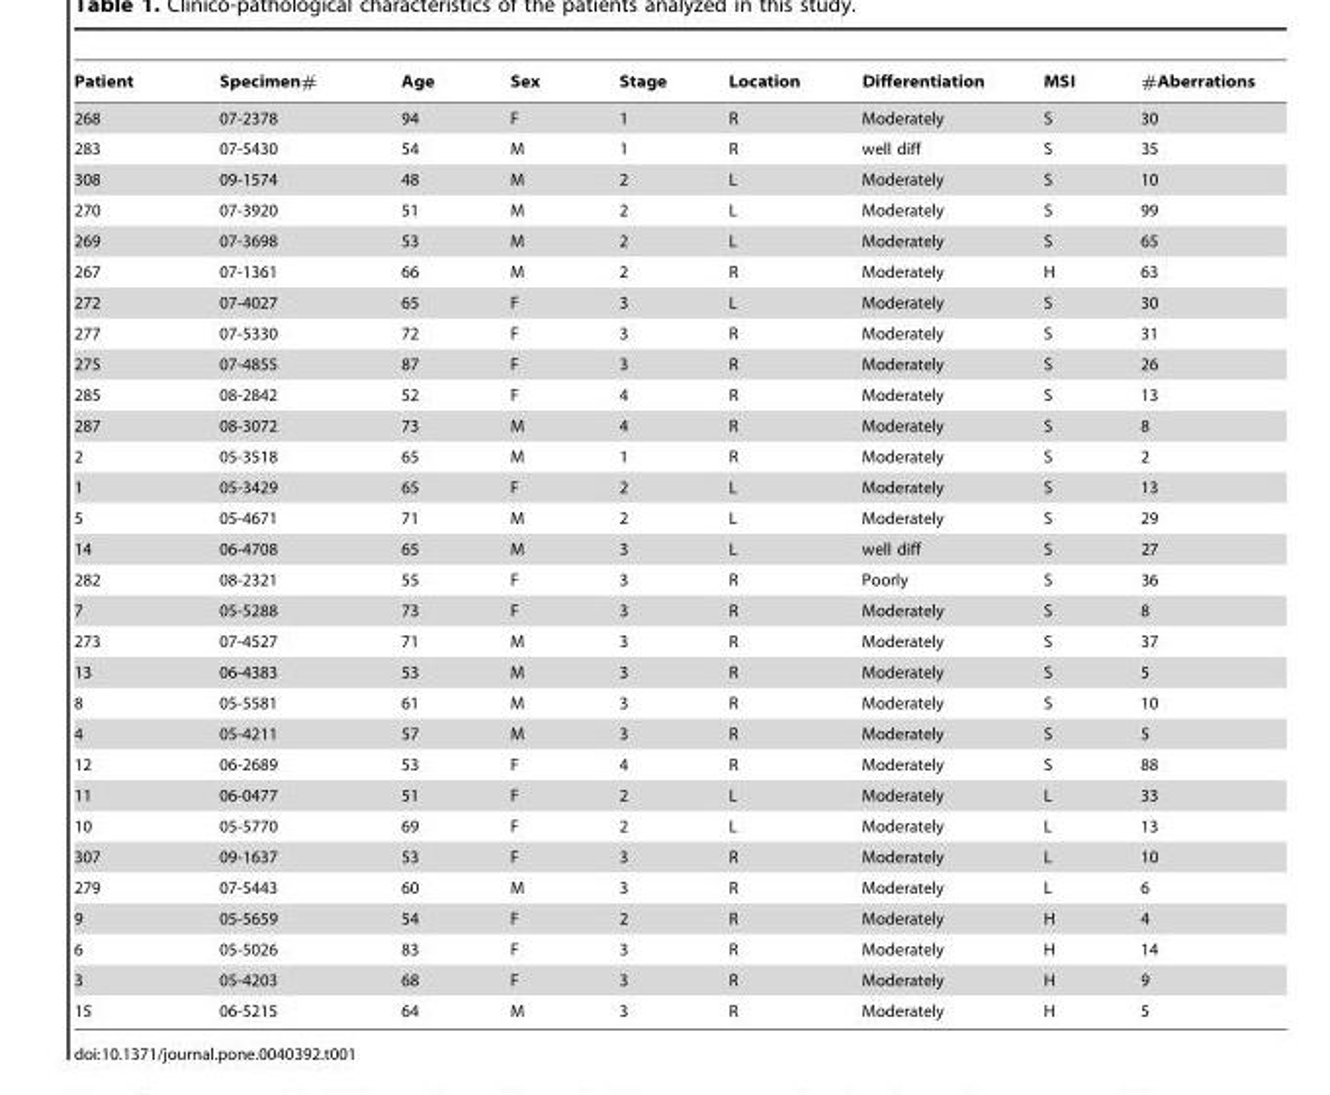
<table><thead><tr><td>Patient</td><td>Specimen#</td><td>Age</td><td>Sex</td><td>Stage</td><td>Location</td><td>Differentiation</td><td>MSI</td><td>#Aberrations</td></tr></thead><tbody><tr><td>268</td><td>07-2378</td><td>94</td><td>F</td><td>1</td><td>R</td><td>Moderately</td><td>S</td><td>30</td></tr><tr><td>283</td><td>07-5430</td><td>54</td><td>M</td><td>1</td><td>R</td><td>well diff</td><td>S</td><td>35</td></tr><tr><td>308</td><td>09-1574</td><td>48</td><td>M</td><td>2</td><td>L</td><td>Moderately</td><td>S</td><td>10</td></tr><tr><td>270</td><td>07-3920</td><td>51</td><td>M</td><td>2</td><td>L</td><td>Moderately</td><td>S</td><td>99</td></tr><tr><td>269</td><td>07-3698</td><td>53</td><td>M</td><td>2</td><td>L</td><td>Moderately</td><td>S</td><td>65</td></tr><tr><td>267</td><td>07-1361</td><td>66</td><td>M</td><td>2</td><td>R</td><td>Moderately</td><td>H</td><td>63</td></tr><tr><td>272</td><td>07-4027</td><td>65</td><td>F</td><td>3</td><td>L</td><td>Moderately</td><td>S</td><td>30</td></tr><tr><td>277</td><td>07-5330</td><td>72</td><td>F</td><td>3</td><td>R</td><td>Moderately</td><td>S</td><td>31</td></tr><tr><td>275</td><td>07-4855</td><td>87</td><td>F</td><td>3</td><td>R</td><td>Moderately</td><td>S</td><td>26</td></tr><tr><td>285</td><td>08-2842</td><td>52</td><td>F</td><td>4</td><td>R</td><td>Moderately</td><td>S</td><td>13</td></tr><tr><td>287</td><td>08-3072</td><td>73</td><td>M</td><td>4</td><td>R</td><td>Moderately</td><td>S</td><td>8</td></tr><tr><td>2</td><td>05-3518</td><td>65</td><td>M</td><td>1</td><td>R</td><td>Moderately</td><td>S</td><td>2</td></tr><tr><td>1</td><td>05-3429</td><td>65</td><td>F</td><td>2</td><td>L</td><td>Moderately</td><td>S</td><td>13</td></tr><tr><td>5</td><td>05-4671</td><td>71</td><td>M</td><td>2</td><td>L</td><td>Moderately</td><td>S</td><td>29</td></tr><tr><td>14</td><td>06-4708</td><td>65</td><td>M</td><td>3</td><td>L</td><td>well diff</td><td>S</td><td>27</td></tr><tr><td>282</td><td>08-2321</td><td>55</td><td>F</td><td>3</td><td>R</td><td>Poorly</td><td>S</td><td>36</td></tr><tr><td>7</td><td>05-5288</td><td>73</td><td>F</td><td>3</td><td>R</td><td>Moderately</td><td>S</td><td>8</td></tr><tr><td>273</td><td>07-4527</td><td>71</td><td>M</td><td>3</td><td>R</td><td>Moderately</td><td>S</td><td>37</td></tr><tr><td>13</td><td>06-4383</td><td>53</td><td>M</td><td>3</td><td>R</td><td>Moderately</td><td>S</td><td>5</td></tr><tr><td>8</td><td>05-5581</td><td>61</td><td>M</td><td>3</td><td>R</td><td>Moderately</td><td>S</td><td>10</td></tr><tr><td>4</td><td>05-4211</td><td>57</td><td>M</td><td>3</td><td>R</td><td>Moderately</td><td>S</td><td>5</td></tr><tr><td>12</td><td>06-2689</td><td>53</td><td>F</td><td>4</td><td>R</td><td>Moderately</td><td>S</td><td>88</td></tr><tr><td>11</td><td>06-0477</td><td>51</td><td>F</td><td>2</td><td>L</td><td>Moderately</td><td>L</td><td>33</td></tr><tr><td>10</td><td>05-5770</td><td>69</td><td>F</td><td>2</td><td>L</td><td>Moderately</td><td>L</td><td>13</td></tr><tr><td>307</td><td>09-1637</td><td>53</td><td>F</td><td>3</td><td>R</td><td>Moderately</td><td>L</td><td>10</td></tr><tr><td>279</td><td>07-5443</td><td>60</td><td>M</td><td>3</td><td>R</td><td>Moderately</td><td>L</td><td>6</td></tr><tr><td>9</td><td>05-5659</td><td>54</td><td>F</td><td>2</td><td>R</td><td>Moderately</td><td>H</td><td>4</td></tr><tr><td>6</td><td>05-5026</td><td>83</td><td>F</td><td>3</td><td>R</td><td>Moderately</td><td>H</td><td>14</td></tr><tr><td>3</td><td>05-4203</td><td>68</td><td>F</td><td>3</td><td>R</td><td>Moderately</td><td>H</td><td>9</td></tr><tr><td>15</td><td>06-5215</td><td>64</td><td>M</td><td>3</td><td>R</td><td>Moderately</td><td>H</td><td>5</td></tr></tbody></table>